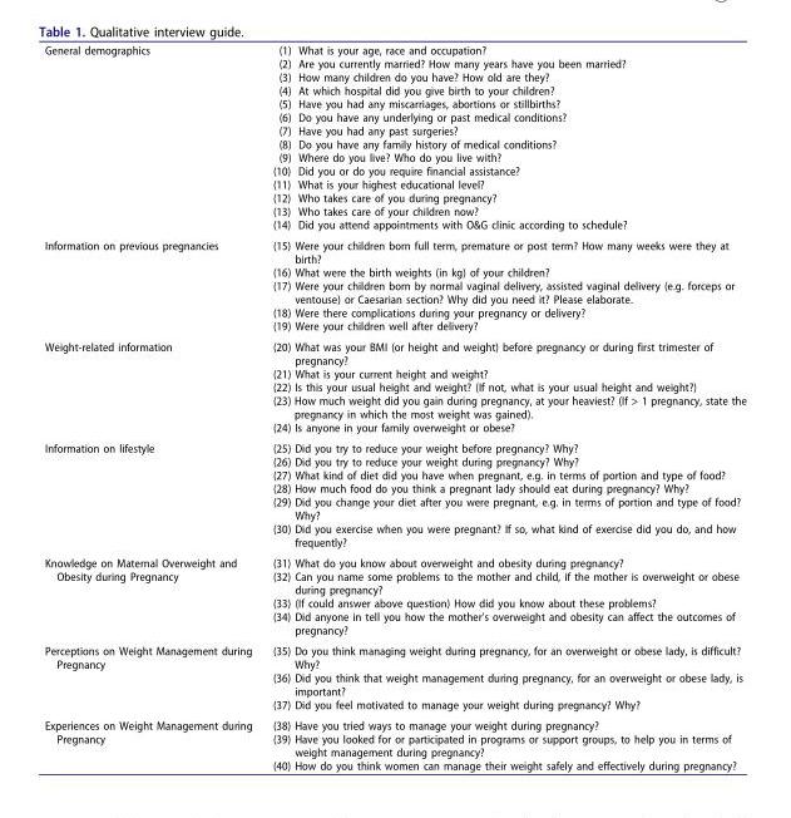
<table><tbody><tr><td>General demographics</td><td>(1) What is your age, race and occupation? (2) Are you currently married? How many years have you been married? (3) How many children do you have? How old are they? (4) At which hospital did you give birth to your children? (5) Have you had any miscarriages, abortions or stillbirths? (6) Do you have any underlying or past medical conditions? (7) Have you had any past surgeries? (8) Do you have any family history of medical conditions? (9) Where do you live? Who do you live with? (10) Did you or do you require financial assistance? (11) What is your highest educational level? (12) Who takes care of you during pregnancy? (13) Who takes care of your children now? (14) Did you attend appointments with O&amp;G clinic according to schedule?</td></tr><tr><td>Information on previous pregnancies</td><td>(15) Were your children born full term, premature or post term? How many weeks were they at birth? (16) What were the birth weights (in kg) of your children? (17) Were your children born by normal vaginal delivery, assisted vaginal delivery (e.g. forceps or ventouse) or Caesarian section? Why did you need it? Please elaborate. (18) Were there complications during your pregnancy or delivery? (19) Were your children well after delivery?</td></tr><tr><td>Weight-related information</td><td>(20) What was your BMI (or height and weight) before pregnancy or during first trimester of pregnancy? (21) What is your current height and weight? (22) Is this your usual height and weight? (If not, what is your usual height and weight?) (23) How much weight did you gain during pregnancy, at your heaviest? (If &gt; 1 pregnancy, state the pregnancy in which the most weight was gained). (24) Is anyone in your family overweight or obese?</td></tr><tr><td>Information on lifestyle</td><td>(25) Did you try to reduce your weight before pregnancy? Why? (26) Did you try to reduce your weight during pregnancy? Why? (27) What kind of diet did you have when pregnant, e.g. in terms of portion and type of food? (28) How much food do you think a pregnant lady should eat during pregnancy? Why? (29) Did you change your diet after you were pregnant, e.g. in terms of portion and type of food? Why? (30) Did you exercise when you were pregnant? If so, what kind of exercise did you do, and how frequently?</td></tr><tr><td>Knowledge on Maternal Overweight and Obesity during Pregnancy</td><td>(31) What do you know about overweight and obesity during pregnancy? (32) Can you name some problems to the mother and child, if the mother is overweight or obese during pregnancy? (33) (If could answer above question) How did you know about these problems? (34) Did anyone in tell you how the mother’s overweight and obesity can affect the outcomes of pregnancy?</td></tr><tr><td>Perceptions on Weight Management during Pregnancy</td><td>(35) Do you think managing weight during pregnancy, for an overweight or obese lady, is difficult? Why? (36) Did you think that weight management during pregnancy, for an overweight or obese lady, is important? (37) Did you feel motivated to manage your weight during pregnancy? Why?</td></tr><tr><td>Experiences on Weight Management during Pregnancy</td><td>(38) Have you tried ways to manage your weight during pregnancy? (39) Have you looked for or participated in programs or support groups, to help you in terms of weight management during pregnancy? (40) How do you think women can manage their weight safely and effectively during pregnancy?</td></tr></tbody></table>